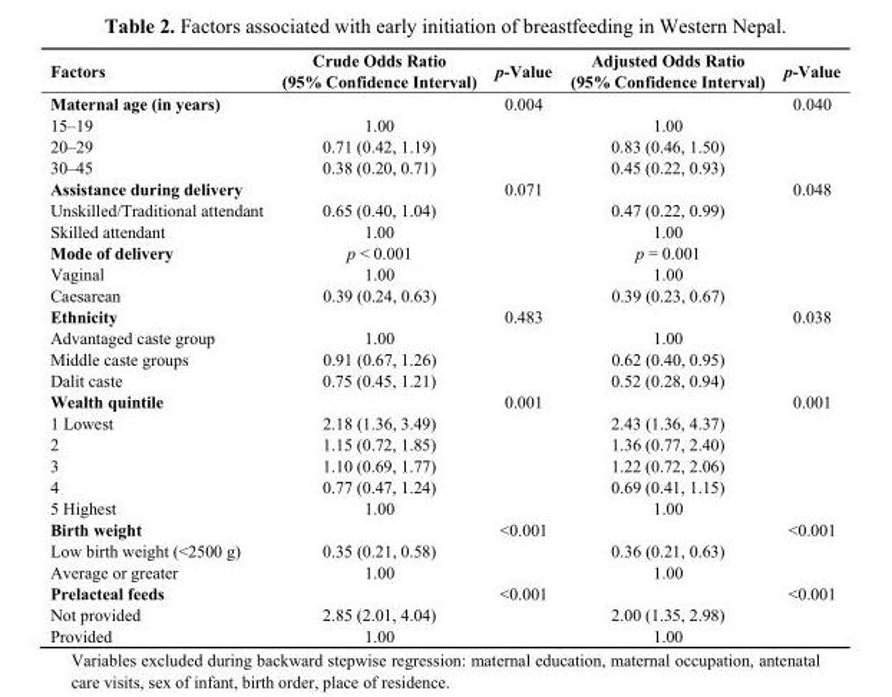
<table><thead><tr><td>Factors</td><td>Crude Odds Ratio (95% Confidence Interval)</td><td>p-Value</td><td>Adjusted Odds Ratio (95% Confidence Interval)</td><td>p-Value</td></tr></thead><tbody><tr><td>Maternal age (in years)</td><td></td><td>0.004</td><td></td><td>0.040</td></tr><tr><td>15–19</td><td>1.00</td><td></td><td>1.00</td><td></td></tr><tr><td>20–29</td><td>0.71 (0.42, 1.19)</td><td></td><td>0.83 (0.46, 1.50)</td><td></td></tr><tr><td>30–45</td><td>0.38 (0.20, 0.71)</td><td></td><td>0.45 (0.22, 0.93)</td><td></td></tr><tr><td>Assistance during delivery</td><td></td><td>0.071</td><td></td><td>0.048</td></tr><tr><td>Unskilled/Traditional attendant</td><td>0.65 (0.40, 1.04)</td><td></td><td>0.47 (0.22, 0.99)</td><td></td></tr><tr><td>Skilled attendant</td><td>1.00</td><td></td><td>1.00</td><td></td></tr><tr><td>Mode of delivery</td><td>p &lt; 0.001</td><td></td><td>p = 0.001</td><td></td></tr><tr><td>Vaginal</td><td>1.00</td><td></td><td>1.00</td><td></td></tr><tr><td>Caesarean</td><td>0.39 (0.24, 0.63)</td><td></td><td>0.39 (0.23, 0.67)</td><td></td></tr><tr><td>Ethnicity</td><td></td><td>0.483</td><td></td><td>0.038</td></tr><tr><td>Advantaged caste group</td><td>1.00</td><td></td><td>1.00</td><td></td></tr><tr><td>Middle caste groups</td><td>0.91 (0.67, 1.26)</td><td></td><td>0.62 (0.40, 0.95)</td><td></td></tr><tr><td>Dalit caste</td><td>0.75 (0.45, 1.21)</td><td></td><td>0.52 (0.28, 0.94)</td><td></td></tr><tr><td>Wealth quintile</td><td></td><td>0.001</td><td></td><td>0.001</td></tr><tr><td>1 Lowest</td><td>2.18 (1.36, 3.49)</td><td></td><td>2.43 (1.36, 4.37)</td><td></td></tr><tr><td>2</td><td>1.15 (0.72, 1.85)</td><td></td><td>1.36 (0.77, 2.40)</td><td></td></tr><tr><td>3</td><td>1.10 (0.69, 1.77)</td><td></td><td>1.22 (0.72, 2.06)</td><td></td></tr><tr><td>4</td><td>0.77 (0.47, 1.24)</td><td></td><td>0.69 (0.41, 1.15)</td><td></td></tr><tr><td>5 Highest</td><td>1.00</td><td></td><td>1.00</td><td></td></tr><tr><td>Birth weight</td><td></td><td>&lt;0.001</td><td></td><td>&lt;0.001</td></tr><tr><td>Low birth weight (&lt;2500 g)</td><td>0.35 (0.21, 0.58)</td><td></td><td>0.36 (0.21, 0.63)</td><td></td></tr><tr><td>Average or greater</td><td>1.00</td><td></td><td>1.00</td><td></td></tr><tr><td>Prelacteal feeds</td><td></td><td>&lt;0.001</td><td></td><td>&lt;0.001</td></tr><tr><td>Not provided</td><td>2.85 (2.01, 4.04)</td><td></td><td>2.00 (1.35, 2.98)</td><td></td></tr><tr><td>Provided</td><td>1.00</td><td></td><td>1.00</td><td></td></tr></tbody></table>